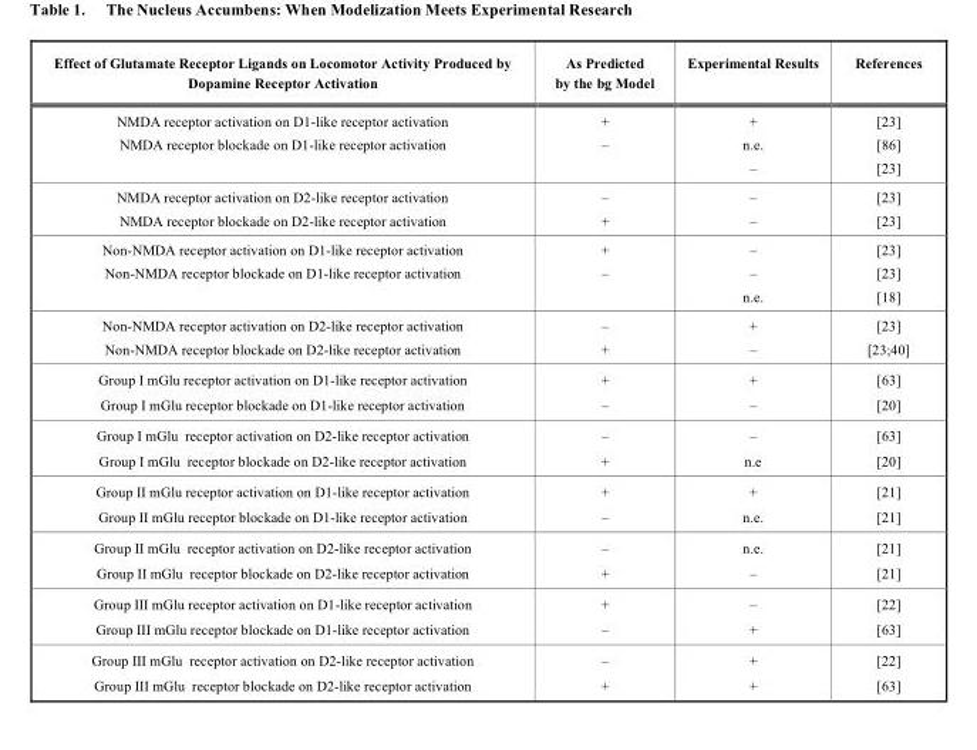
<table><thead><tr><td>Effect of Glutamate Receptor Ligands on Locomotor Activity Produced by Dopamine Receptor Activation</td><td>As Predicted by the bg Model</td><td>Experimental Results</td><td>References</td></tr></thead><tbody><tr><td>NMDA receptor activation on D1-like receptor activation NMDA receptor blockade on D1-like receptor activation</td><td>+ –</td><td>+ n.e. –</td><td>[23] [86] [23]</td></tr><tr><td>NMDA receptor activation on D2-like receptor activation NMDA receptor blockade on D2-like receptor activation</td><td>– +</td><td>– –</td><td>[23] [23]</td></tr><tr><td>Non-NMDA receptor activation on D1-like receptor activation Non-NMDA receptor blockade on D1-like receptor activation</td><td>+ –</td><td>– – n.e.</td><td>[23] [23] [18]</td></tr><tr><td>Non-NMDA receptor activation on D2-like receptor activation Non-NMDA receptor blockade on D2-like receptor activation</td><td>– +</td><td>+ –</td><td>[23] [23;40]</td></tr><tr><td>Group I mGlu receptor activation on D1-like receptor activation Group I mGlu receptor blockade on D1-like receptor activation</td><td>+ –</td><td>+ –</td><td>[63] [20]</td></tr><tr><td>Group I mGlu receptor activation on D2-like receptor activation Group I mGlu receptor blockade on D2-like receptor activation</td><td>– +</td><td>– n.e</td><td>[63] [20]</td></tr><tr><td>Group II mGlu receptor activation on D1-like receptor activation Group II mGlu receptor blockade on D1-like receptor activation</td><td>+ –</td><td>+ n.e.</td><td>[21] [21]</td></tr><tr><td>Group II mGlu receptor activation on D2-like receptor activation Group II mGlu receptor blockade on D2-like receptor activation</td><td>– +</td><td>n.e. –</td><td>[21] [21]</td></tr><tr><td>Group III mGlu receptor activation on D1-like receptor activation Group III mGlu receptor blockade on D1-like receptor activation</td><td>+ –</td><td>– +</td><td>[22] [63]</td></tr><tr><td>Group III mGlu receptor activation on D2-like receptor activation Group III mGlu receptor blockade on D2-like receptor activation</td><td>– +</td><td>+ +</td><td>[22] [63]</td></tr></tbody></table>